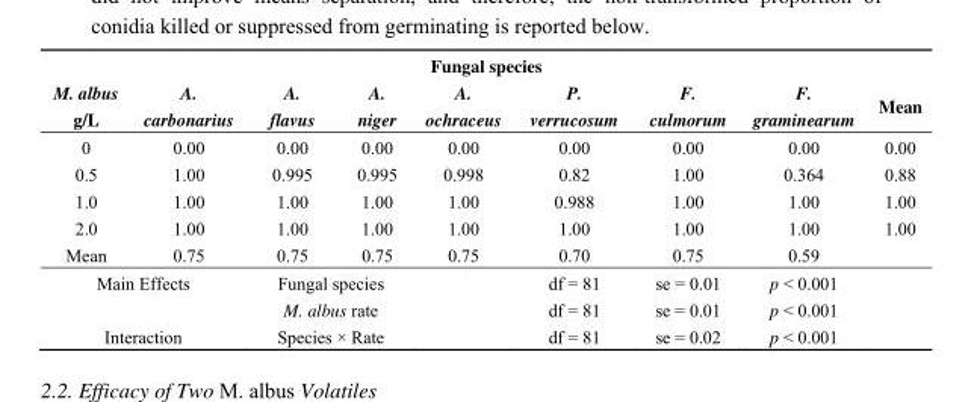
<table><thead><tr><td colspan="9">Fungal species</td></tr><tr><td>M. albus g/L</td><td>A. carbonarius</td><td>A. flavus</td><td>A. niger</td><td>A. ochraceus</td><td>P. verrucosum</td><td>F. culmorum</td><td>F. graminearum</td><td>Mean</td></tr></thead><tbody><tr><td>0</td><td>0.00</td><td>0.00</td><td>0.00</td><td>0.00</td><td>0.00</td><td>0.00</td><td>0.00</td><td>0.00</td></tr><tr><td>0.5</td><td>1.00</td><td>0.995</td><td>0.995</td><td>0.998</td><td>0.82</td><td>1.00</td><td>0.364</td><td>0.88</td></tr><tr><td>1.0</td><td>1.00</td><td>1.00</td><td>1.00</td><td>1.00</td><td>0.988</td><td>1.00</td><td>1.00</td><td>1.00</td></tr><tr><td>2.0</td><td>1.00</td><td>1.00</td><td>1.00</td><td>1.00</td><td>1.00</td><td>1.00</td><td>1.00</td><td>1.00</td></tr><tr><td>Mean</td><td>0.75</td><td>0.75</td><td>0.75</td><td>0.75</td><td>0.70</td><td>0.75</td><td>0.59</td><td></td></tr><tr><td rowspan="2" colspan="2">Main Effects</td><td colspan="2">Fungal species</td><td></td><td>df = 81</td><td>se = 0.01</td><td>p &lt; 0.001</td><td></td></tr><tr><td colspan="2">M. albus rate</td><td></td><td>df = 81</td><td>se = 0.01</td><td>p &lt; 0.001</td><td></td></tr><tr><td colspan="2">Interaction</td><td colspan="2">Species × Rate</td><td></td><td>df = 81</td><td>se = 0.02</td><td>p &lt; 0.001</td><td></td></tr></tbody></table>